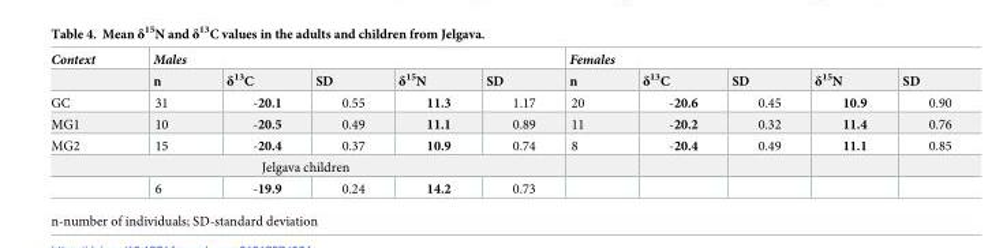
<table><thead><tr><td rowspan="2">Context</td><td colspan="5">Males</td><td colspan="5">Females</td></tr><tr><td>n</td><td>δ<sup>13</sup>C</td><td>SD</td><td>δ<sup>15</sup>N</td><td>SD</td><td>n</td><td>δ<sup>13</sup>C</td><td>SD</td><td>δ<sup>15</sup>N</td><td>SD</td></tr></thead><tbody><tr><td>GC</td><td>31</td><td>-20.1</td><td>0.55</td><td>11.3</td><td>1.17</td><td>20</td><td>-20.6</td><td>0.45</td><td>10.9</td><td>0.90</td></tr><tr><td>MG1</td><td>10</td><td>-20.5</td><td>0.49</td><td>11.1</td><td>0.89</td><td>11</td><td>-20.2</td><td>0.32</td><td>11.4</td><td>0.76</td></tr><tr><td>MG2</td><td>15</td><td>-20.4</td><td>0.37</td><td>10.9</td><td>0.74</td><td>8</td><td>-20.4</td><td>0.49</td><td>11.1</td><td>0.85</td></tr><tr><td colspan="11">Jelgava children</td></tr><tr><td></td><td>6</td><td>-19.9</td><td>0.24</td><td>14.2</td><td>0.73</td><td></td><td></td><td></td><td></td><td></td></tr></tbody></table>